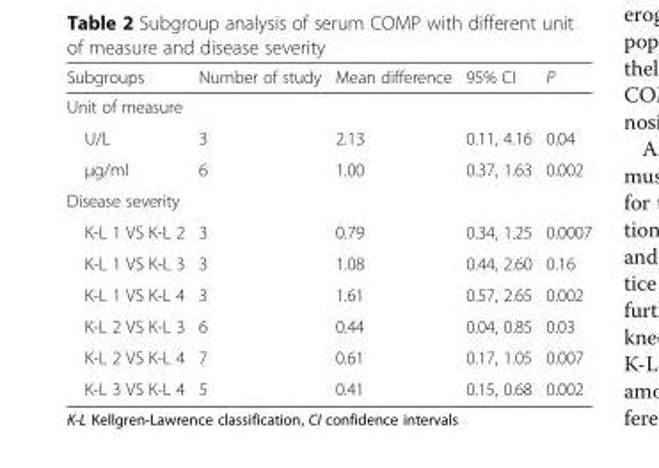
<table><thead><tr><td>Subgroups</td><td>Number of study</td><td>Mean difference</td><td>95% CI</td><td>P</td></tr></thead><tbody><tr><td colspan="5">Unit of measure</td></tr><tr><td>U/L</td><td>3</td><td>2.13</td><td>0.11, 4.16</td><td>0.04</td></tr><tr><td>μg/ml</td><td>6</td><td>1.00</td><td>0.37, 1.63</td><td>0.002</td></tr><tr><td colspan="5">Disease severity</td></tr><tr><td>K-L 1 VS K-L 2</td><td>3</td><td>0.79</td><td>0.34, 1.25</td><td>0.0007</td></tr><tr><td>K-L 1 VS K-L 3</td><td>3</td><td>1.08</td><td>0.44, 2.60</td><td>0.16</td></tr><tr><td>K-L 1 VS K-L 4</td><td>3</td><td>1.61</td><td>0.57, 2.65</td><td>0.002</td></tr><tr><td>K-L 2 VS K-L 3</td><td>6</td><td>0.44</td><td>0.04, 0.85</td><td>0.03</td></tr><tr><td>K-L 2 VS K-L 4</td><td>7</td><td>0.61</td><td>0.17, 1.05</td><td>0.007</td></tr><tr><td>K-L 3 VS K-L 4</td><td>5</td><td>0.41</td><td>0.15, 0.68</td><td>0.002</td></tr></tbody></table>